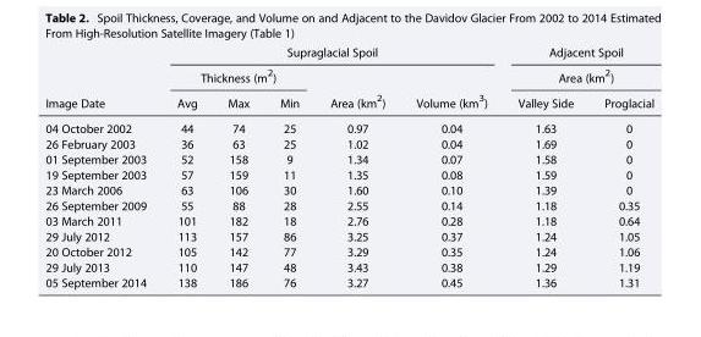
<table><thead><tr><td rowspan="3">Image Date</td><td colspan="5">Supraglacial Spoil</td><td rowspan="2" colspan="2">Adjacent Spoil Area (km<sup>2</sup>)</td></tr><tr><td colspan="3">Thickness (m<sup>2</sup>)</td><td rowspan="2">Area (km<sup>2</sup>)</td><td rowspan="2">Volume (km<sup>3</sup>)</td></tr><tr><td>Avg</td><td>Max</td><td>Min</td><td>Valley Side</td><td>Proglacial</td></tr></thead><tbody><tr><td>04 October 2002</td><td>44</td><td>74</td><td>25</td><td>0.97</td><td>0.04</td><td>1.63</td><td>0</td></tr><tr><td>26 February 2003</td><td>36</td><td>63</td><td>25</td><td>1.02</td><td>0.04</td><td>1.69</td><td>0</td></tr><tr><td>01 September 2003</td><td>52</td><td>158</td><td>9</td><td>1.34</td><td>0.07</td><td>1.58</td><td>0</td></tr><tr><td>19 September 2003</td><td>57</td><td>159</td><td>11</td><td>1.35</td><td>0.08</td><td>1.59</td><td>0</td></tr><tr><td>23 March 2006</td><td>63</td><td>106</td><td>30</td><td>1.60</td><td>0.10</td><td>1.39</td><td>0</td></tr><tr><td>26 September 2009</td><td>55</td><td>88</td><td>28</td><td>2.55</td><td>0.14</td><td>1.18</td><td>0.35</td></tr><tr><td>03 March 2011</td><td>101</td><td>182</td><td>18</td><td>2.76</td><td>0.28</td><td>1.18</td><td>0.64</td></tr><tr><td>29 July 2012</td><td>113</td><td>157</td><td>86</td><td>3.25</td><td>0.37</td><td>1.24</td><td>1.05</td></tr><tr><td>20 October 2012</td><td>105</td><td>142</td><td>77</td><td>3.29</td><td>0.35</td><td>1.24</td><td>1.06</td></tr><tr><td>29 July 2013</td><td>110</td><td>147</td><td>48</td><td>3.43</td><td>0.38</td><td>1.29</td><td>1.19</td></tr><tr><td>05 September 2014</td><td>138</td><td>186</td><td>76</td><td>3.27</td><td>0.45</td><td>1.36</td><td>1.31</td></tr></tbody></table>